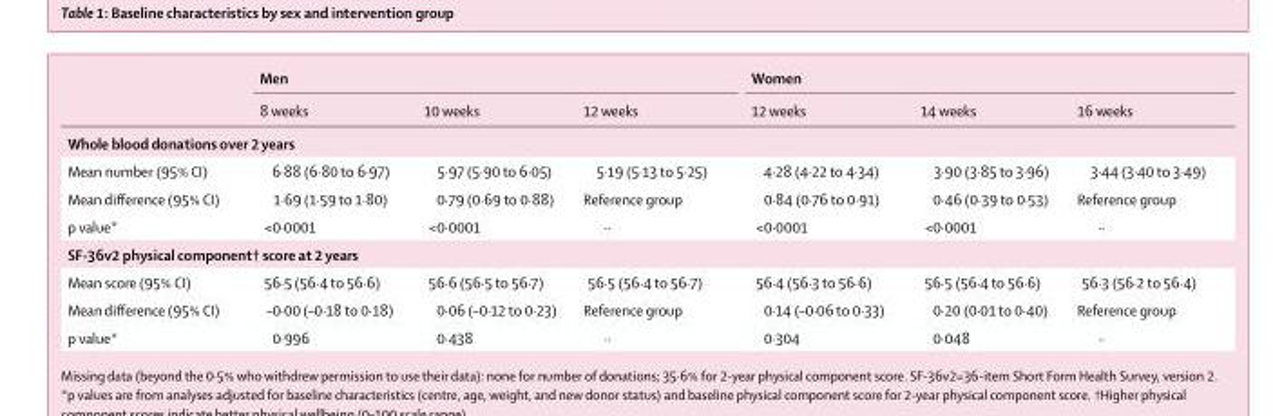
<table><thead><tr><td rowspan="2"></td><td colspan="3">Men</td><td colspan="3">Women</td></tr><tr><td>8 weeks</td><td>10 weeks</td><td>12 weeks</td><td>12 weeks</td><td>14 weeks</td><td>16 weeks</td></tr></thead><tbody><tr><td colspan="7">Whole blood donations over 2 years</td></tr><tr><td>Mean number (95% CI)</td><td>6·88 (6·80 to 6·97)</td><td>5·97 (5·90 to 6·05)</td><td>5·19 (5·13 to 5·25)</td><td>4·28 (4·22 to 4·34)</td><td>3·90 (3·85 to 3·96)</td><td>3·44 (3·40 to 3·49)</td></tr><tr><td>Mean difference (95% CI)</td><td>1·69 (1·59 to 1·80)</td><td>0·79 (0·69 to 0·88)</td><td>Reference group</td><td>0·84 (0·76 to 0·91)</td><td>0·46 (0·39 to 0·53)</td><td>Reference group</td></tr><tr><td>p value*</td><td>&lt;0·0001</td><td>&lt;0·0001</td><td>··</td><td>&lt;0·0001</td><td>&lt;0·0001</td><td>··</td></tr><tr><td colspan="7">SF-36v2 physical component† score at 2 years</td></tr><tr><td>Mean score (95% CI)</td><td>56·5 (56·4 to 56·6)</td><td>56·6 (56·5 to 56·7)</td><td>56·5 (56·4 to 56·7)</td><td>56·4 (56·3 to 56·6)</td><td>56·5 (56·4 to 56·6)</td><td>56·3 (56·2 to 56·4)</td></tr><tr><td>Mean difference (95% CI)</td><td>–0·00 (–0·18 to 0·18)</td><td>0·06 (–0·12 to 0·23)</td><td>Reference group</td><td>0·14 (–0·06 to 0·33)</td><td>0·20 (0·01 to 0·40)</td><td>Reference group</td></tr><tr><td>p value*</td><td>0·996</td><td>0·438</td><td>··</td><td>0·304</td><td>0·048</td><td>··</td></tr></tbody></table>